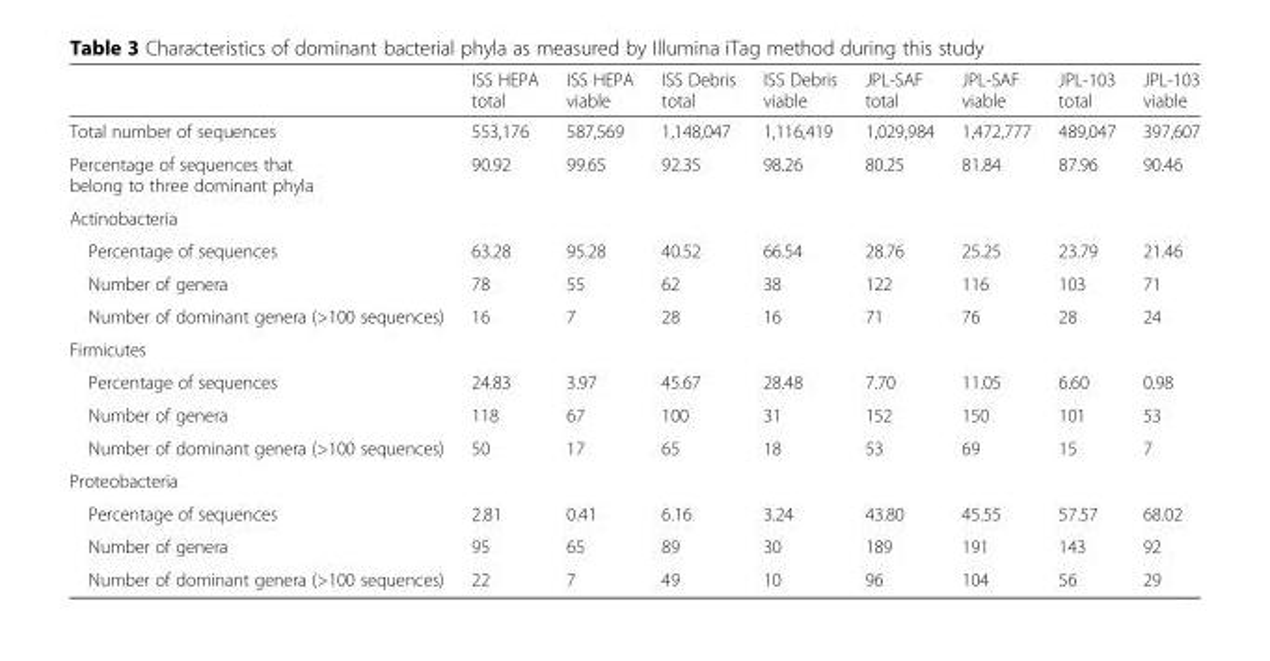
<table><thead><tr><td></td><td>ISS HEPA total</td><td>ISS HEPA viable</td><td>ISS Debris total</td><td>ISS Debris viable</td><td>JPL-SAF total</td><td>JPL-SAF viable</td><td>JPL-103 total</td><td>JPL-103 viable</td></tr></thead><tbody><tr><td>Total number of sequences</td><td>553,176</td><td>587,569</td><td>1,148,047</td><td>1,116,419</td><td>1,029,984</td><td>1,472,777</td><td>489,047</td><td>397,607</td></tr><tr><td>Percentage of sequences that belong to three dominant phyla</td><td>90.92</td><td>99.65</td><td>92.35</td><td>98.26</td><td>80.25</td><td>81.84</td><td>87.96</td><td>90.46</td></tr><tr><td colspan="9">Actinobacteria</td></tr><tr><td>Percentage of sequences</td><td>63.28</td><td>95.28</td><td>40.52</td><td>66.54</td><td>28.76</td><td>25.25</td><td>23.79</td><td>21.46</td></tr><tr><td>Number of genera</td><td>78</td><td>55</td><td>62</td><td>38</td><td>122</td><td>116</td><td>103</td><td>71</td></tr><tr><td>Number of dominant genera (&gt;100 sequences)</td><td>16</td><td>7</td><td>28</td><td>16</td><td>71</td><td>76</td><td>28</td><td>24</td></tr><tr><td colspan="9">Firmicutes</td></tr><tr><td>Percentage of sequences</td><td>24.83</td><td>3.97</td><td>45.67</td><td>28.48</td><td>7.70</td><td>11.05</td><td>6.60</td><td>0.98</td></tr><tr><td>Number of genera</td><td>118</td><td>67</td><td>100</td><td>31</td><td>152</td><td>150</td><td>101</td><td>53</td></tr><tr><td>Number of dominant genera (&gt;100 sequences)</td><td>50</td><td>17</td><td>65</td><td>18</td><td>53</td><td>69</td><td>15</td><td>7</td></tr><tr><td colspan="9">Proteobacteria</td></tr><tr><td>Percentage of sequences</td><td>2.81</td><td>0.41</td><td>6.16</td><td>3.24</td><td>43.80</td><td>45.55</td><td>57.57</td><td>68.02</td></tr><tr><td>Number of genera</td><td>95</td><td>65</td><td>89</td><td>30</td><td>189</td><td>191</td><td>143</td><td>92</td></tr><tr><td>Number of dominant genera (&gt;100 sequences)</td><td>22</td><td>7</td><td>49</td><td>10</td><td>96</td><td>104</td><td>56</td><td>29</td></tr></tbody></table>